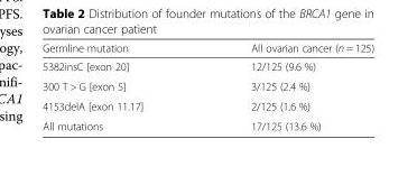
<table><thead><tr><td>Germline mutation</td><td>All ovarian cancer (n = 125)</td></tr></thead><tbody><tr><td>5382insC [exon 20]</td><td>12/125 (9.6 %)</td></tr><tr><td>300 T &gt; G [exon 5]</td><td>3/125 (2.4 %)</td></tr><tr><td>4153delA [exon 11.17]</td><td>2/125 (1.6 %)</td></tr><tr><td>All mutations</td><td>17/125 (13.6 %)</td></tr></tbody></table>